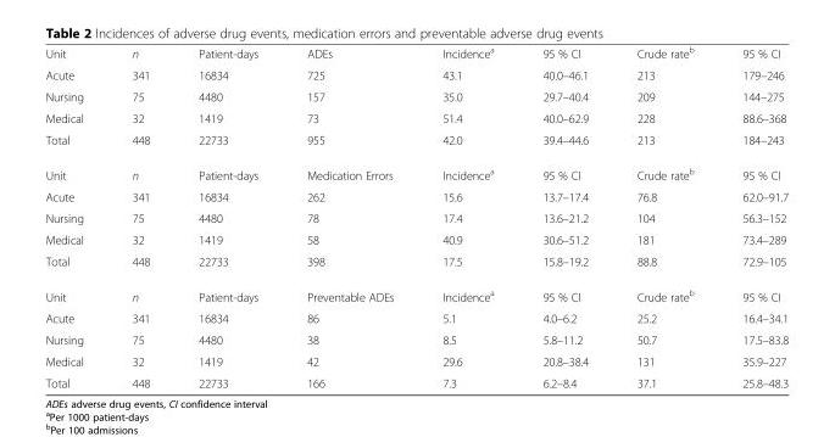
<table><tbody><tr><td>Unit</td><td>n</td><td>Patient-days</td><td>ADEs</td><td>Incidence<sup>a</sup></td><td>95 % CI</td><td>Crude rate<sup>b</sup></td><td>95 % CI</td></tr><tr><td>Acute</td><td>341</td><td>16834</td><td>725</td><td>43.1</td><td>40.0–46.1</td><td>213</td><td>179–246</td></tr><tr><td>Nursing</td><td>75</td><td>4480</td><td>157</td><td>35.0</td><td>29.7–40.4</td><td>209</td><td>144–275</td></tr><tr><td>Medical</td><td>32</td><td>1419</td><td>73</td><td>51.4</td><td>40.0–62.9</td><td>228</td><td>88.6–368</td></tr><tr><td>Total</td><td>448</td><td>22733</td><td>955</td><td>42.0</td><td>39.4–44.6</td><td>213</td><td>184–243</td></tr><tr><td>Unit</td><td>n</td><td>Patient-days</td><td>Medication Errors</td><td>Incidence<sup>a</sup></td><td>95 % CI</td><td>Crude rate<sup>b</sup></td><td>95 % CI</td></tr><tr><td>Acute</td><td>341</td><td>16834</td><td>262</td><td>15.6</td><td>13.7–17.4</td><td>76.8</td><td>62.0–91.7</td></tr><tr><td>Nursing</td><td>75</td><td>4480</td><td>78</td><td>17.4</td><td>13.6–21.2</td><td>104</td><td>56.3–152</td></tr><tr><td>Medical</td><td>32</td><td>1419</td><td>58</td><td>40.9</td><td>30.6–51.2</td><td>181</td><td>73.4–289</td></tr><tr><td>Total</td><td>448</td><td>22733</td><td>398</td><td>17.5</td><td>15.8–19.2</td><td>88.8</td><td>72.9–105</td></tr><tr><td>Unit</td><td>n</td><td>Patient-days</td><td>Preventable ADEs</td><td>Incidence<sup>a</sup></td><td>95 % CI</td><td>Crude rate<sup>b</sup></td><td>95 % CI</td></tr><tr><td>Acute</td><td>341</td><td>16834</td><td>86</td><td>5.1</td><td>4.0–6.2</td><td>25.2</td><td>16.4–34.1</td></tr><tr><td>Nursing</td><td>75</td><td>4480</td><td>38</td><td>8.5</td><td>5.8–11.2</td><td>50.7</td><td>17.5–83.8</td></tr><tr><td>Medical</td><td>32</td><td>1419</td><td>42</td><td>29.6</td><td>20.8–38.4</td><td>131</td><td>35.9–227</td></tr><tr><td>Total</td><td>448</td><td>22733</td><td>166</td><td>7.3</td><td>6.2–8.4</td><td>37.1</td><td>25.8–48.3</td></tr></tbody></table>